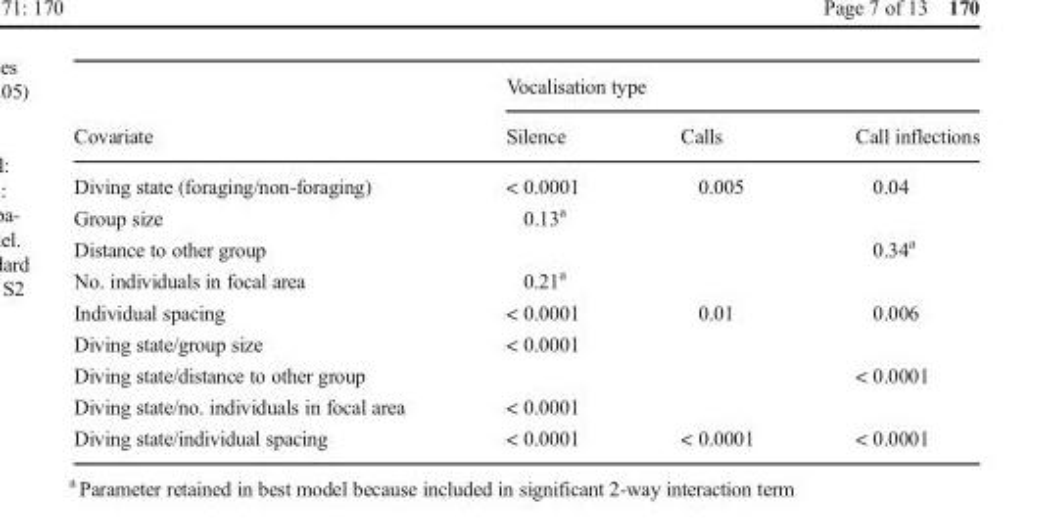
<table><thead><tr><td rowspan="2">Covariate</td><td colspan="3">Vocalisation type</td></tr><tr><td>Silence</td><td>Calls</td><td>Call inflections</td></tr></thead><tbody><tr><td>Diving state (foraging/non-foraging)</td><td>&lt; 0.0001</td><td>0.005</td><td>0.04</td></tr><tr><td>Group size</td><td>0.13<sup>a</sup></td><td></td><td></td></tr><tr><td>Distance to other group</td><td></td><td></td><td>0.34<sup>a</sup></td></tr><tr><td>No. individuals in focal area</td><td>0.21<sup>a</sup></td><td></td><td></td></tr><tr><td>Individual spacing</td><td>&lt; 0.0001</td><td>0.01</td><td>0.006</td></tr><tr><td>Diving state/group size</td><td>&lt; 0.0001</td><td></td><td></td></tr><tr><td>Diving state/distance to other group</td><td></td><td></td><td>&lt; 0.0001</td></tr><tr><td>Diving state/no. individuals in focal area</td><td>&lt; 0.0001</td><td></td><td></td></tr><tr><td>Diving state/individual spacing</td><td>&lt; 0.0001</td><td>&lt; 0.0001</td><td>&lt; 0.0001</td></tr></tbody></table>